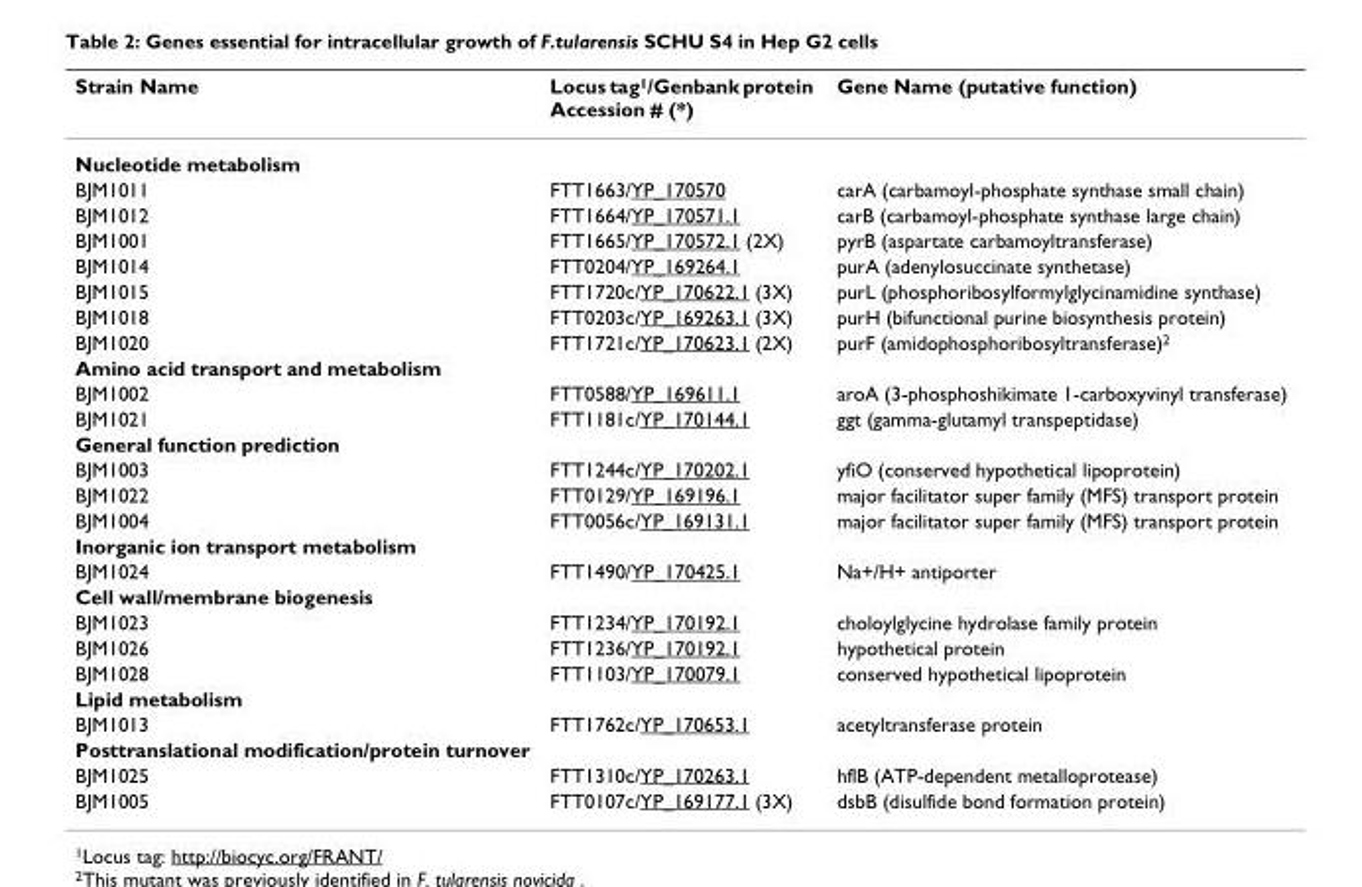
<table><thead><tr><td>Strain Name</td><td>Locus tag1/Genbank protein Accession # (*)</td><td>Gene Name (putative function)</td></tr></thead><tbody><tr><td colspan="3">Nucleotide metabolism</td></tr><tr><td>BJM1011</td><td>FTT1663/YP_170570</td><td>carA (carbamoyl-phosphate synthase small chain)</td></tr><tr><td>BJM1012</td><td>FTT1664/YP_170571.1</td><td>carB (carbamoyl-phosphate synthase large chain)</td></tr><tr><td>BJM1001</td><td>FTT1665/YP_170572.1 (2X)</td><td>pyrB (aspartate carbamoyltransferase)</td></tr><tr><td>BJM1014</td><td>FTT0204/YP_169264.1</td><td>purA (adenylosuccinate synthetase)</td></tr><tr><td>BJM1015</td><td>FTT1720c/YP_170622.1 (3X)</td><td>purL (phosphoribosylformylglycinamidine synthase)</td></tr><tr><td>BJM1018</td><td>FTT0203c/YP_169263.1 (3X)</td><td>purH (bifunctional purine biosynthesis protein)</td></tr><tr><td>BJM1020</td><td>FTT1721c/YP_170623.1 (2X)</td><td>purF (amidophosphoribosyltransferase)2</td></tr><tr><td colspan="3">Amino acid transport and metabolism</td></tr><tr><td>BJM1002</td><td>FTT0588/YP_169611.1</td><td>aroA (3-phosphoshikimate 1-carboxyvinyl transferase)</td></tr><tr><td>BJM1021</td><td>FTT1181c/YP_170144.1</td><td>ggt (gamma-glutamyl transpeptidase)</td></tr><tr><td colspan="3">General function prediction</td></tr><tr><td>BJM1003</td><td>FTT1244c/YP_170202.1</td><td>yfiO (conserved hypothetical lipoprotein)</td></tr><tr><td>BJM1022</td><td>FTT0129/YP_169196.1</td><td>major facilitator super family (MFS) transport protein</td></tr><tr><td>BJM1004</td><td>FTT0056c/YP_169131.1</td><td>major facilitator super family (MFS) transport protein</td></tr><tr><td colspan="3">Inorganic ion transport metabolism</td></tr><tr><td>BJM1024</td><td>FTT1490/YP_170425.1</td><td>Na+/H+ antiporter</td></tr><tr><td colspan="3">Cell wall/membrane biogenesis</td></tr><tr><td>BJM1023</td><td>FTT1234/YP_170192.1</td><td>choloylglycine hydrolase family protein</td></tr><tr><td>BJM1026</td><td>FTT1236/YP_170192.1</td><td>hypothetical protein</td></tr><tr><td>BJM1028</td><td>FTT1103/YP_170079.1</td><td>conserved hypothetical lipoprotein</td></tr><tr><td colspan="3">Lipid metabolism</td></tr><tr><td>BJM1013</td><td>FTT1762c/YP_170653.1</td><td>acetyltransferase protein</td></tr><tr><td colspan="3">Posttranslational modification/protein turnover</td></tr><tr><td>BJM1025</td><td>FTT1310c/YP_170263.1</td><td>hflB (ATP-dependent metalloprotease)</td></tr><tr><td>BJM1005</td><td>FTT0107c/YP_169177.1 (3X)</td><td>dsbB (disulfide bond formation protein)</td></tr></tbody></table>